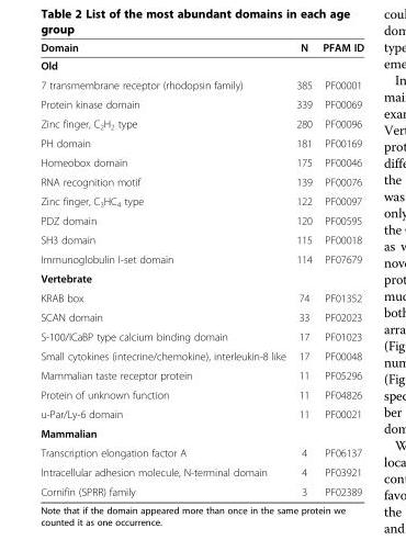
<table><thead><tr><td>Domain</td><td>N</td><td>PFAM ID</td></tr></thead><tbody><tr><td colspan="3">Old</td></tr><tr><td>7 transmembrane receptor (rhodopsin family)</td><td>385</td><td>PF00001</td></tr><tr><td>Protein kinase domain</td><td>339</td><td>PF00069</td></tr><tr><td>Zinc finger, C<sub>2</sub>H<sub>2</sub> type</td><td>280</td><td>PF00096</td></tr><tr><td>PH domain</td><td>181</td><td>PF00169</td></tr><tr><td>Homeobox domain</td><td>175</td><td>PF00046</td></tr><tr><td>RNA recognition motif</td><td>139</td><td>PF00076</td></tr><tr><td>Zinc finger, C<sub>3</sub>HC<sub>4</sub> type</td><td>122</td><td>PF00097</td></tr><tr><td>PDZ domain</td><td>120</td><td>PF00595</td></tr><tr><td>SH3 domain</td><td>115</td><td>PF00018</td></tr><tr><td>Immunoglobulin I-set domain</td><td>114</td><td>PF07679</td></tr><tr><td colspan="3">Vertebrate</td></tr><tr><td>KRAB box</td><td>74</td><td>PF01352</td></tr><tr><td>SCAN domain</td><td>33</td><td>PF02023</td></tr><tr><td>S-100/ICaBP type calcium binding domain</td><td>17</td><td>PF01023</td></tr><tr><td>Small cytokines (intecrine/chemokine), interleukin-8 like</td><td>17</td><td>PF00048</td></tr><tr><td>Mammalian taste receptor protein</td><td>11</td><td>PF05296</td></tr><tr><td>Protein of unknown function</td><td>11</td><td>PF04826</td></tr><tr><td>u-Par/Ly-6 domain</td><td>11</td><td>PF00021</td></tr><tr><td colspan="3">Mammalian</td></tr><tr><td>Transcription elongation factor A</td><td>4</td><td>PF06137</td></tr><tr><td>Intracellular adhesion molecule, N-terminal domain</td><td>4</td><td>PF03921</td></tr><tr><td>Cornifin (SPRR) family</td><td>3</td><td>PF02389</td></tr></tbody></table>